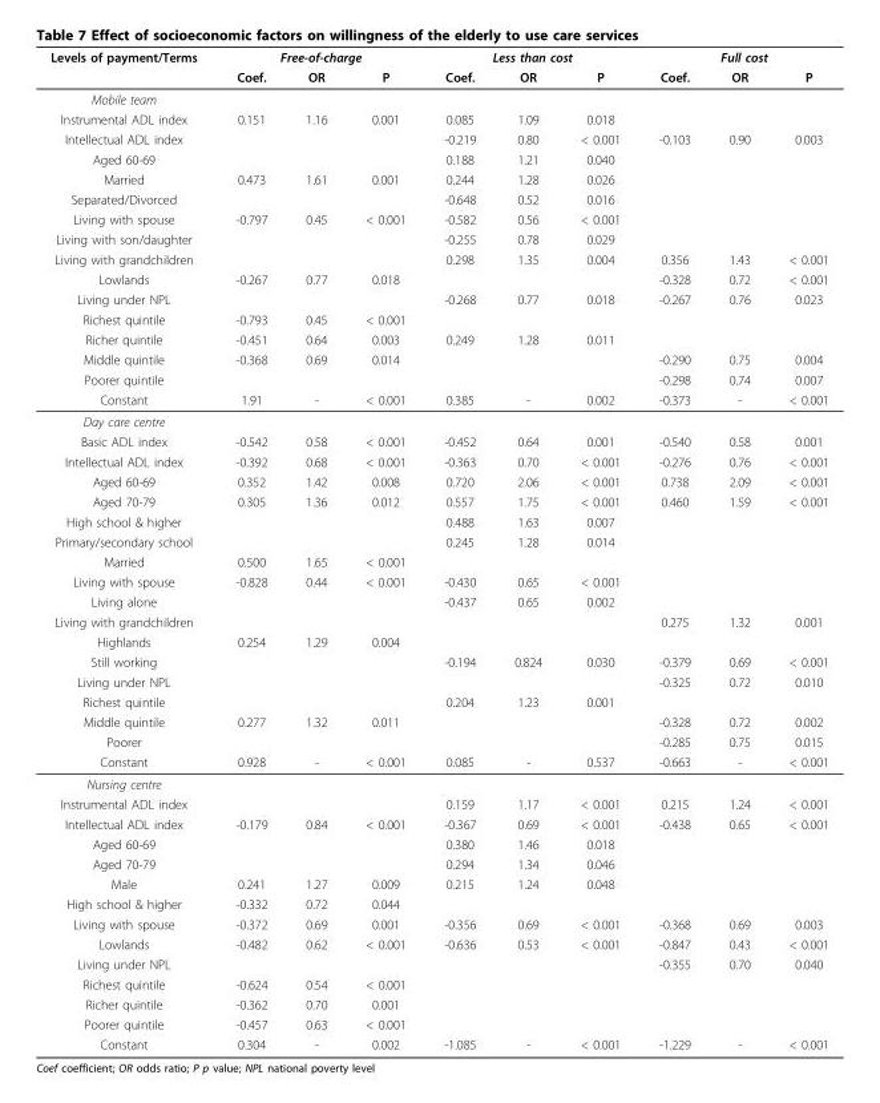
<table><thead><tr><td rowspan="2">Levels of payment/Terms</td><td colspan="3">Free-of-charge</td><td colspan="3">Less than cost</td><td colspan="3">Full cost</td></tr><tr><td>Coef.</td><td>OR</td><td>P</td><td>Coef.</td><td>OR</td><td>P</td><td>Coef.</td><td>OR</td><td>P</td></tr></thead><tbody><tr><td colspan="10">Mobile team</td></tr><tr><td>Instrumental ADL index</td><td>0.151</td><td>1.16</td><td>0.001</td><td>0.085</td><td>1.09</td><td>0.018</td><td></td><td></td><td></td></tr><tr><td>Intellectual ADL index</td><td></td><td></td><td></td><td>-0.219</td><td>0.80</td><td>&lt; 0.001</td><td>-0.103</td><td>0.90</td><td>0.003</td></tr><tr><td>Aged 60-69</td><td></td><td></td><td></td><td>0.188</td><td>1.21</td><td>0.040</td><td></td><td></td><td></td></tr><tr><td>Married</td><td>0.473</td><td>1.61</td><td>0.001</td><td>0.244</td><td>1.28</td><td>0.026</td><td></td><td></td><td></td></tr><tr><td>Separated/Divorced</td><td></td><td></td><td></td><td>-0.648</td><td>0.52</td><td>0.016</td><td></td><td></td><td></td></tr><tr><td>Living with spouse</td><td>-0.797</td><td>0.45</td><td>&lt; 0.001</td><td>-0.582</td><td>0.56</td><td>&lt; 0.001</td><td></td><td></td><td></td></tr><tr><td>Living with son/daughter</td><td></td><td></td><td></td><td>-0.255</td><td>0.78</td><td>0.029</td><td></td><td></td><td></td></tr><tr><td>Living with grandchildren</td><td></td><td></td><td></td><td>0.298</td><td>1.35</td><td>0.004</td><td>0.356</td><td>1.43</td><td>&lt; 0.001</td></tr><tr><td>Lowlands</td><td>-0.267</td><td>0.77</td><td>0.018</td><td></td><td></td><td></td><td>-0.328</td><td>0.72</td><td>&lt; 0.001</td></tr><tr><td>Living under NPL</td><td></td><td></td><td></td><td>-0.268</td><td>0.77</td><td>0.018</td><td>-0.267</td><td>0.76</td><td>0.023</td></tr><tr><td>Richest quintile</td><td>-0.793</td><td>0.45</td><td>&lt; 0.001</td><td></td><td></td><td></td><td></td><td></td><td></td></tr><tr><td>Richer quintile</td><td>-0.451</td><td>0.64</td><td>0.003</td><td>0.249</td><td>1.28</td><td>0.011</td><td></td><td></td><td></td></tr><tr><td>Middle quintile</td><td>-0.368</td><td>0.69</td><td>0.014</td><td></td><td></td><td></td><td>-0.290</td><td>0.75</td><td>0.004</td></tr><tr><td>Poorer quintile</td><td></td><td></td><td></td><td></td><td></td><td></td><td>-0.298</td><td>0.74</td><td>0.007</td></tr><tr><td>Constant</td><td>1.91</td><td>-</td><td>&lt; 0.001</td><td>0.385</td><td>-</td><td>0.002</td><td>-0.373</td><td>-</td><td>&lt; 0.001</td></tr><tr><td colspan="10">Day care centre</td></tr><tr><td>Basic ADL index</td><td>-0.542</td><td>0.58</td><td>&lt; 0.001</td><td>-0.452</td><td>0.64</td><td>0.001</td><td>-0.540</td><td>0.58</td><td>0.001</td></tr><tr><td>Intellectual ADL index</td><td>-0.392</td><td>0.68</td><td>&lt; 0.001</td><td>-0.363</td><td>0.70</td><td>&lt; 0.001</td><td>-0.276</td><td>0.76</td><td>&lt; 0.001</td></tr><tr><td>Aged 60-69</td><td>0.352</td><td>1.42</td><td>0.008</td><td>0.720</td><td>2.06</td><td>&lt; 0.001</td><td>0.738</td><td>2.09</td><td>&lt; 0.001</td></tr><tr><td>Aged 70-79</td><td>0.305</td><td>1.36</td><td>0.012</td><td>0.557</td><td>1.75</td><td>&lt; 0.001</td><td>0.460</td><td>1.59</td><td>&lt; 0.001</td></tr><tr><td>High school &amp; higher</td><td></td><td></td><td></td><td>0.488</td><td>1.63</td><td>0.007</td><td></td><td></td><td></td></tr><tr><td>Primary/secondary school</td><td></td><td></td><td></td><td>0.245</td><td>1.28</td><td>0.014</td><td></td><td></td><td></td></tr><tr><td>Married</td><td>0.500</td><td>1.65</td><td>&lt; 0.001</td><td></td><td></td><td></td><td></td><td></td><td></td></tr><tr><td>Living with spouse</td><td>-0.828</td><td>0.44</td><td>&lt; 0.001</td><td>-0.430</td><td>0.65</td><td>&lt; 0.001</td><td></td><td></td><td></td></tr><tr><td>Living alone</td><td></td><td></td><td></td><td>-0.437</td><td>0.65</td><td>0.002</td><td></td><td></td><td></td></tr><tr><td>Living with grandchildren</td><td></td><td></td><td></td><td></td><td></td><td></td><td>0.275</td><td>1.32</td><td>0.001</td></tr><tr><td>Highlands</td><td>0.254</td><td>1.29</td><td>0.004</td><td></td><td></td><td></td><td></td><td></td><td></td></tr><tr><td>Still working</td><td></td><td></td><td></td><td>-0.194</td><td>0.824</td><td>0.030</td><td>-0.379</td><td>0.69</td><td>&lt; 0.001</td></tr><tr><td>Living under NPL</td><td></td><td></td><td></td><td></td><td></td><td></td><td>-0.325</td><td>0.72</td><td>0.010</td></tr><tr><td>Richest quintile</td><td></td><td></td><td></td><td>0.204</td><td>1.23</td><td>0.001</td><td></td><td></td><td></td></tr><tr><td>Middle quintile</td><td>0.277</td><td>1.32</td><td>0.011</td><td></td><td></td><td></td><td>-0.328</td><td>0.72</td><td>0.002</td></tr><tr><td>Poorer</td><td></td><td></td><td></td><td></td><td></td><td></td><td>-0.285</td><td>0.75</td><td>0.015</td></tr><tr><td>Constant</td><td>0.928</td><td>-</td><td>&lt; 0.001</td><td>0.085</td><td>-</td><td>0.537</td><td>-0.663</td><td>-</td><td>&lt; 0.001</td></tr><tr><td colspan="10">Nursing centre</td></tr><tr><td>Instrumental ADL index</td><td></td><td></td><td></td><td>0.159</td><td>1.17</td><td>&lt; 0.001</td><td>0.215</td><td>1.24</td><td>&lt; 0.001</td></tr><tr><td>Intellectual ADL index</td><td>-0.179</td><td>0.84</td><td>&lt; 0.001</td><td>-0.367</td><td>0.69</td><td>&lt; 0.001</td><td>-0.438</td><td>0.65</td><td>&lt; 0.001</td></tr><tr><td>Aged 60-69</td><td></td><td></td><td></td><td>0.380</td><td>1.46</td><td>0.018</td><td></td><td></td><td></td></tr><tr><td>Aged 70-79</td><td></td><td></td><td></td><td>0.294</td><td>1.34</td><td>0.046</td><td></td><td></td><td></td></tr><tr><td>Male</td><td>0.241</td><td>1.27</td><td>0.009</td><td>0.215</td><td>1.24</td><td>0.048</td><td></td><td></td><td></td></tr><tr><td>High school &amp; higher</td><td>-0.332</td><td>0.72</td><td>0.044</td><td></td><td></td><td></td><td></td><td></td><td></td></tr><tr><td>Living with spouse</td><td>-0.372</td><td>0.69</td><td>0.001</td><td>-0.356</td><td>0.69</td><td>&lt; 0.001</td><td>-0.368</td><td>0.69</td><td>0.003</td></tr><tr><td>Lowlands</td><td>-0.482</td><td>0.62</td><td>&lt; 0.001</td><td>-0.636</td><td>0.53</td><td>&lt; 0.001</td><td>-0.847</td><td>0.43</td><td>&lt; 0.001</td></tr><tr><td>Living under NPL</td><td></td><td></td><td></td><td></td><td></td><td></td><td>-0.355</td><td>0.70</td><td>0.040</td></tr><tr><td>Richest quintile</td><td>-0.624</td><td>0.54</td><td>&lt; 0.001</td><td></td><td></td><td></td><td></td><td></td><td></td></tr><tr><td>Richer quintile</td><td>-0.362</td><td>0.70</td><td>0.001</td><td></td><td></td><td></td><td></td><td></td><td></td></tr><tr><td>Poorer quintile</td><td>-0.457</td><td>0.63</td><td>&lt; 0.001</td><td></td><td></td><td></td><td></td><td></td><td></td></tr><tr><td>Constant</td><td>0.304</td><td>-</td><td>0.002</td><td>-1.085</td><td>-</td><td>&lt; 0.001</td><td>-1.229</td><td>-</td><td>&lt; 0.001</td></tr></tbody></table>